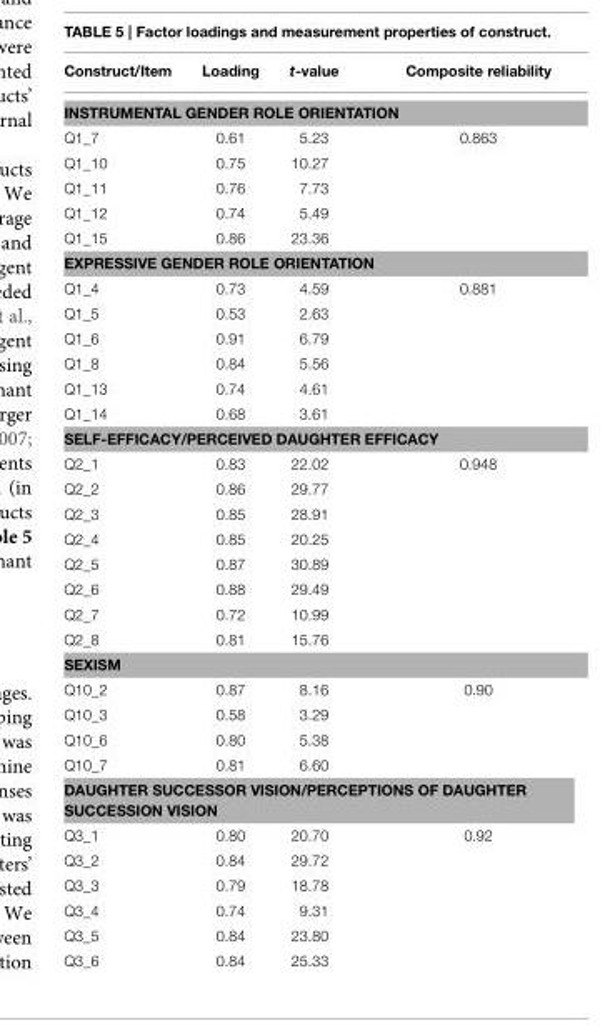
<table><thead><tr><td>Construct/Item</td><td>Loading</td><td>t-value</td><td>Composite reliability</td></tr></thead><tbody><tr><td colspan="4">INSTRUMENTAL GENDER ROLE ORIENTATION</td></tr><tr><td>Q1_7</td><td>0.61</td><td>5.23</td><td>0.863</td></tr><tr><td>Q1_10</td><td>0.75</td><td>10.27</td><td></td></tr><tr><td>Q1_11</td><td>0.76</td><td>7.73</td><td></td></tr><tr><td>Q1_12</td><td>0.74</td><td>5.49</td><td></td></tr><tr><td>Q1_15</td><td>0.86</td><td>23.36</td><td></td></tr><tr><td colspan="4">EXPRESSIVE GENDER ROLE ORIENTATION</td></tr><tr><td>Q1_4</td><td>0.73</td><td>4.59</td><td>0.881</td></tr><tr><td>Q1_5</td><td>0.53</td><td>2.63</td><td></td></tr><tr><td>Q1_6</td><td>0.91</td><td>6.79</td><td></td></tr><tr><td>Q1_8</td><td>0.84</td><td>5.56</td><td></td></tr><tr><td>Q1_13</td><td>0.74</td><td>4.61</td><td></td></tr><tr><td>Q1_14</td><td>0.68</td><td>3.61</td><td></td></tr><tr><td colspan="4">SELF-EFFICACY/PERCEIVED DAUGHTER EFFICACY</td></tr><tr><td>Q2_1</td><td>0.83</td><td>22.02</td><td>0.948</td></tr><tr><td>Q2_2</td><td>0.86</td><td>29.77</td><td></td></tr><tr><td>Q2_3</td><td>0.85</td><td>28.91</td><td></td></tr><tr><td>Q2_4</td><td>0.85</td><td>20.25</td><td></td></tr><tr><td>Q2_5</td><td>0.87</td><td>30.89</td><td></td></tr><tr><td>Q2_6</td><td>0.88</td><td>29.49</td><td></td></tr><tr><td>Q2_7</td><td>0.72</td><td>10.99</td><td></td></tr><tr><td>Q2_8</td><td>0.81</td><td>15.76</td><td></td></tr><tr><td colspan="4">SEXISM</td></tr><tr><td>Q10_2</td><td>0.87</td><td>8.16</td><td>0.90</td></tr><tr><td>Q10_3</td><td>0.58</td><td>3.29</td><td></td></tr><tr><td>Q10_6</td><td>0.80</td><td>5.38</td><td></td></tr><tr><td>Q10_7</td><td>0.81</td><td>6.60</td><td></td></tr><tr><td colspan="4">DAUGHTER SUCCESSOR VISION/PERCEPTIONS OF DAUGHTER SUCCESSION VISION</td></tr><tr><td>Q3_1</td><td>0.80</td><td>20.70</td><td>0.92</td></tr><tr><td>Q3_2</td><td>0.84</td><td>29.72</td><td></td></tr><tr><td>Q3_3</td><td>0.79</td><td>18.78</td><td></td></tr><tr><td>Q3_4</td><td>0.74</td><td>9.31</td><td></td></tr><tr><td>Q3_5</td><td>0.84</td><td>23.80</td><td></td></tr><tr><td>Q3_6</td><td>0.84</td><td>25.33</td><td></td></tr></tbody></table>